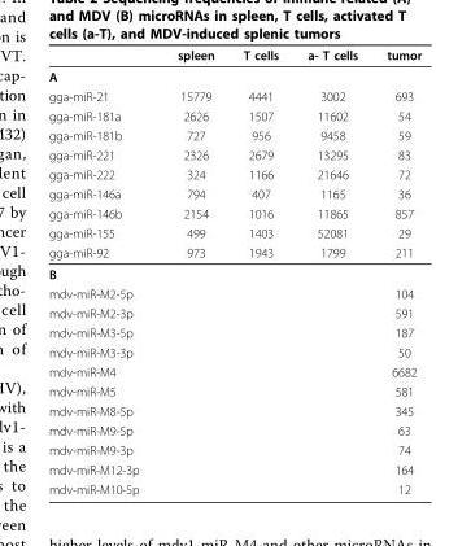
<table><thead><tr><td></td><td>spleen</td><td>T cells</td><td>a- T cells</td><td>tumor</td></tr></thead><tbody><tr><td colspan="5">A</td></tr><tr><td>gga-miR-21</td><td>15779</td><td>4441</td><td>3002</td><td>693</td></tr><tr><td>gga-miR-181a</td><td>2626</td><td>1507</td><td>11602</td><td>54</td></tr><tr><td>gga-miR-181b</td><td>727</td><td>956</td><td>9458</td><td>59</td></tr><tr><td>gga-miR-221</td><td>2326</td><td>2679</td><td>13295</td><td>83</td></tr><tr><td>gga-miR-222</td><td>324</td><td>1166</td><td>21646</td><td>72</td></tr><tr><td>gga-miR-146a</td><td>794</td><td>407</td><td>1165</td><td>36</td></tr><tr><td>gga-miR-146b</td><td>2154</td><td>1016</td><td>11865</td><td>857</td></tr><tr><td>gga-miR-155</td><td>499</td><td>1403</td><td>52081</td><td>29</td></tr><tr><td>gga-miR-92</td><td>973</td><td>1943</td><td>1799</td><td>211</td></tr><tr><td colspan="5">B</td></tr><tr><td>mdv-miR-M2-5p</td><td></td><td></td><td></td><td>104</td></tr><tr><td>mdv-miR-M2-3p</td><td></td><td></td><td></td><td>591</td></tr><tr><td>mdv-miR-M3-5p</td><td></td><td></td><td></td><td>187</td></tr><tr><td>mdv-miR-M3-3p</td><td></td><td></td><td></td><td>50</td></tr><tr><td>mdv-miR-M4</td><td></td><td></td><td></td><td>6682</td></tr><tr><td>mdv-miR-M5</td><td></td><td></td><td></td><td>581</td></tr><tr><td>mdv-miR-M8-5p</td><td></td><td></td><td></td><td>345</td></tr><tr><td>mdv-miR-M9-5p</td><td></td><td></td><td></td><td>63</td></tr><tr><td>mdv-miR-M9-3p</td><td></td><td></td><td></td><td>74</td></tr><tr><td>mdv-miR-M12-3p</td><td></td><td></td><td></td><td>164</td></tr><tr><td>mdv-miR-M10-5p</td><td></td><td></td><td></td><td>12</td></tr></tbody></table>